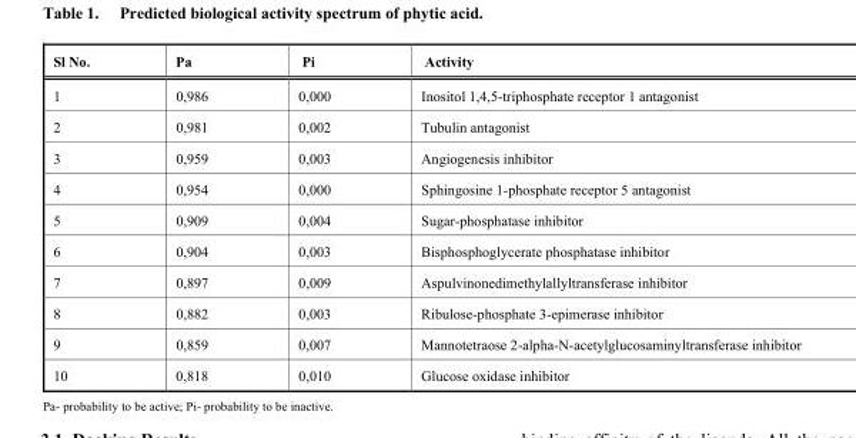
<table><thead><tr><td>Sl No.</td><td>Pa</td><td>Pi</td><td>Activity</td></tr></thead><tbody><tr><td>1</td><td>0,986</td><td>0,000</td><td>Inositol 1,4,5-triphosphate receptor 1 antagonist</td></tr><tr><td>2</td><td>0,981</td><td>0,002</td><td>Tubulin antagonist</td></tr><tr><td>3</td><td>0,959</td><td>0,003</td><td>Angiogenesis inhibitor</td></tr><tr><td>4</td><td>0,954</td><td>0,000</td><td>Sphingosine 1-phosphate receptor 5 antagonist</td></tr><tr><td>5</td><td>0,909</td><td>0,004</td><td>Sugar-phosphatase inhibitor</td></tr><tr><td>6</td><td>0,904</td><td>0,003</td><td>Bisphosphoglycerate phosphatase inhibitor</td></tr><tr><td>7</td><td>0,897</td><td>0,009</td><td>Aspulvinonedimethylallyltransferase inhibitor</td></tr><tr><td>8</td><td>0,882</td><td>0,003</td><td>Ribulose-phosphate 3-epimerase inhibitor</td></tr><tr><td>9</td><td>0,859</td><td>0,007</td><td>Mannotetraose 2-alpha-N-acetylglucosaminyltransferase inhibitor</td></tr><tr><td>10</td><td>0,818</td><td>0,010</td><td>Glucose oxidase inhibitor</td></tr></tbody></table>